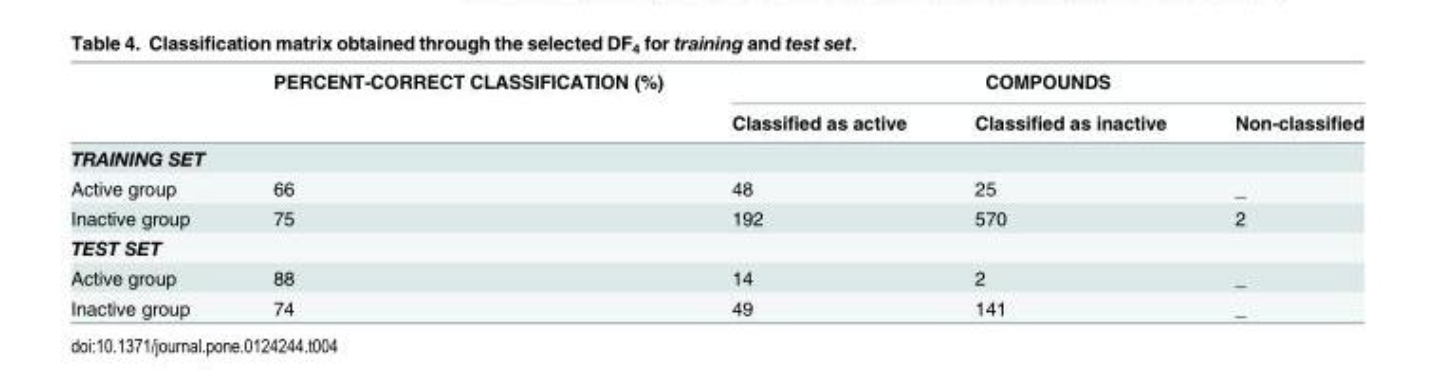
<table><thead><tr><td rowspan="2"></td><td rowspan="2">PERCENT-CORRECT CLASSIFICATION (%)</td><td colspan="3">COMPOUNDS</td></tr><tr><td>Classified as active</td><td>Classified as inactive</td><td>Non-classified</td></tr></thead><tbody><tr><td colspan="5">TRAINING SET</td></tr><tr><td>Active group</td><td>66</td><td>48</td><td>25</td><td>_</td></tr><tr><td>Inactive group</td><td>75</td><td>192</td><td>570</td><td>2</td></tr><tr><td colspan="5">TEST SET</td></tr><tr><td>Active group</td><td>88</td><td>14</td><td>2</td><td>_</td></tr><tr><td>Inactive group</td><td>74</td><td>49</td><td>141</td><td>_</td></tr></tbody></table>